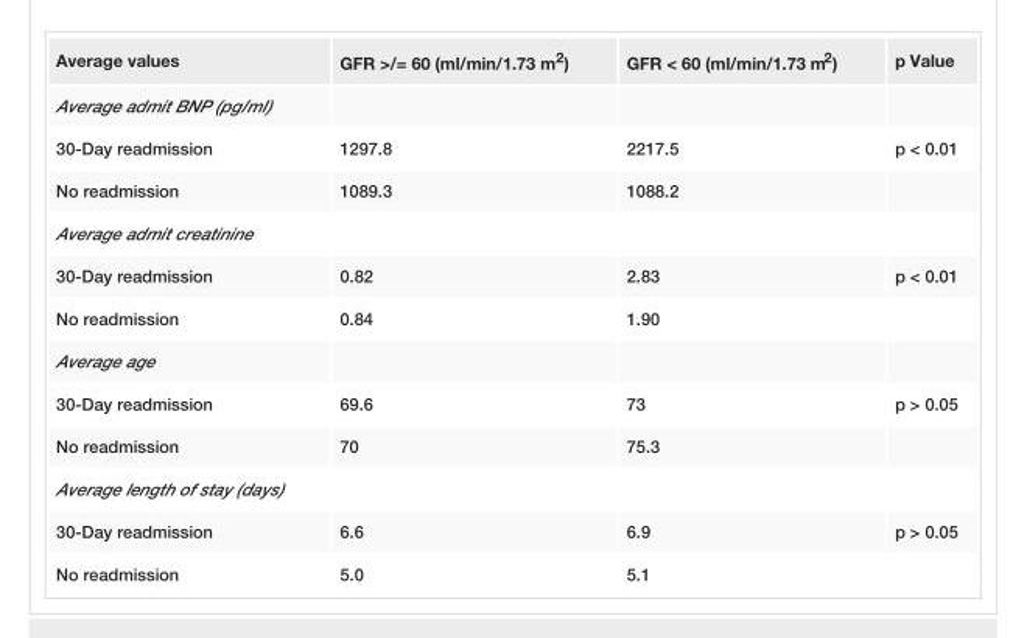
<table><tbody><tr><td>Average values</td><td>GFR &gt;/= 60 (ml/min/1.73 m2)</td><td>GFR &lt; 60 (ml/min/1.73 m<sup>2</sup>)</td><td>p Value</td></tr><tr><td colspan="4">Average admit BNP (pg/ml)</td></tr><tr><td>30-Day readmission</td><td>1297.8</td><td>2217.5</td><td>p &lt; 0.01</td></tr><tr><td>No readmission</td><td>1089.3</td><td>1088.2</td><td></td></tr><tr><td colspan="4">Average admit creatinine</td></tr><tr><td>30-Day readmission</td><td>0.82</td><td>2.83</td><td>p &lt; 0.01</td></tr><tr><td>No readmission</td><td>0.84</td><td>1.90</td><td></td></tr><tr><td colspan="4">Average age</td></tr><tr><td>30-Day readmission</td><td>69.6</td><td>73</td><td>p &gt; 0.05</td></tr><tr><td>No readmission</td><td>70</td><td>75.3</td><td></td></tr><tr><td colspan="4">Average length of stay (days)</td></tr><tr><td>30-Day readmission</td><td>6.6</td><td>6.9</td><td>p &gt; 0.05</td></tr><tr><td>No readmission</td><td>5.0</td><td>5.1</td><td></td></tr></tbody></table>